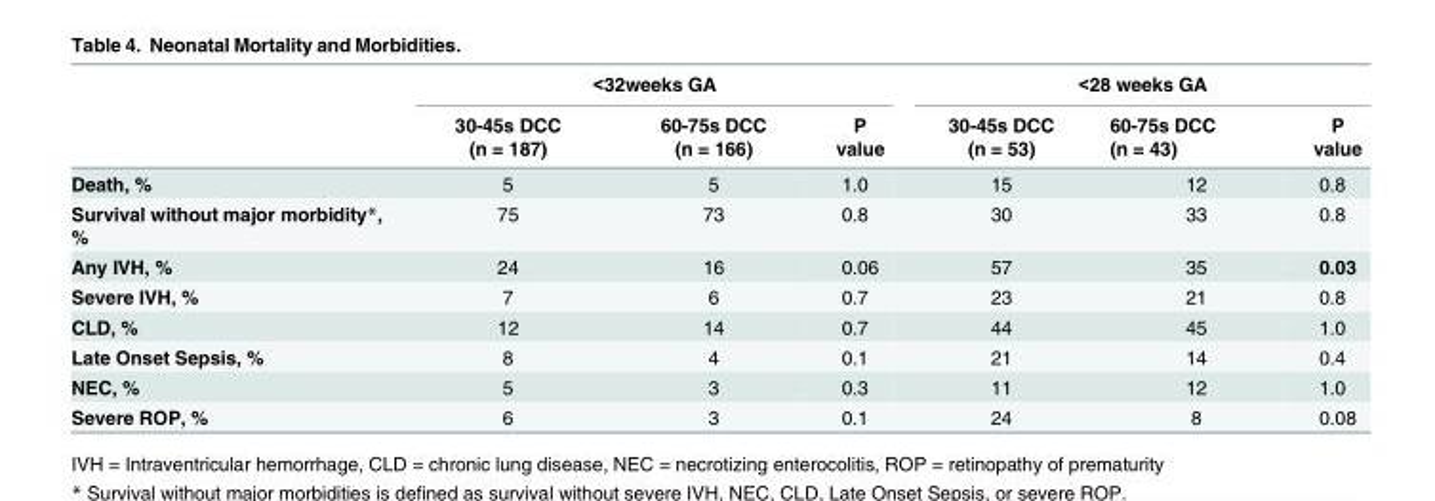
<table><thead><tr><td rowspan="2"></td><td colspan="3">&lt;32weeks GA</td><td colspan="3">&lt;28 weeks GA</td></tr><tr><td>30-45s DCC (n = 187)</td><td>60-75s DCC (n = 166)</td><td>P value</td><td>30-45s DCC (n = 53)</td><td>60-75s DCC (n = 43)</td><td>P value</td></tr></thead><tbody><tr><td>Death, %</td><td>5</td><td>5</td><td>1.0</td><td>15</td><td>12</td><td>0.8</td></tr><tr><td>Survival without major morbidity*, %</td><td>75</td><td>73</td><td>0.8</td><td>30</td><td>33</td><td>0.8</td></tr><tr><td>Any IVH, %</td><td>24</td><td>16</td><td>0.06</td><td>57</td><td>35</td><td>0.03</td></tr><tr><td>Severe IVH, %</td><td>7</td><td>6</td><td>0.7</td><td>23</td><td>21</td><td>0.8</td></tr><tr><td>CLD, %</td><td>12</td><td>14</td><td>0.7</td><td>44</td><td>45</td><td>1.0</td></tr><tr><td>Late Onset Sepsis, %</td><td>8</td><td>4</td><td>0.1</td><td>21</td><td>14</td><td>0.4</td></tr><tr><td>NEC, %</td><td>5</td><td>3</td><td>0.3</td><td>11</td><td>12</td><td>1.0</td></tr><tr><td>Severe ROP, %</td><td>6</td><td>3</td><td>0.1</td><td>24</td><td>8</td><td>0.08</td></tr></tbody></table>